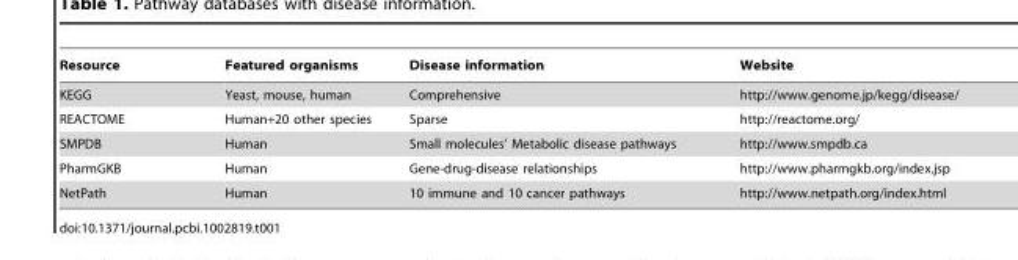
<table><thead><tr><td>Resource</td><td>Featured organisms</td><td>Disease information</td><td>Website</td></tr></thead><tbody><tr><td>KEGG</td><td>Yeast, mouse, human</td><td>Comprehensive</td><td>http://www.genome.jp/kegg/disease/</td></tr><tr><td>REACTOME</td><td>Human+20 other species</td><td>Sparse</td><td>http://reactome.org/</td></tr><tr><td>SMPDB</td><td>Human</td><td>Small molecules’ Metabolic disease pathways</td><td>http://www.smpdb.ca</td></tr><tr><td>PharmGKB</td><td>Human</td><td>Gene-drug-disease relationships</td><td>http://www.pharmgkb.org/index.jsp</td></tr><tr><td>NetPath</td><td>Human</td><td>10 immune and 10 cancer pathways</td><td>http://www.netpath.org/index.html</td></tr></tbody></table>